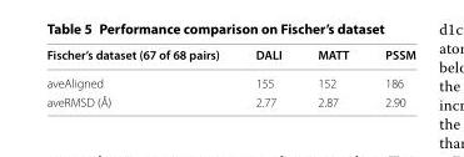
<table><thead><tr><td>Fischer’s dataset (67 of 68 pairs)</td><td>DALI</td><td>MATT</td><td>PSSM</td></tr></thead><tbody><tr><td>aveAligned</td><td>155</td><td>152</td><td>186</td></tr><tr><td>aveRMSD (Å)</td><td>2.77</td><td>2.87</td><td>2.90</td></tr></tbody></table>